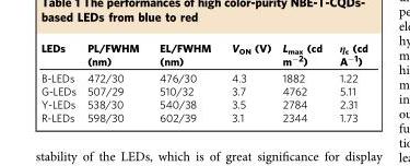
<table><thead><tr><td>LEDs</td><td>PL/FWHM (nm)</td><td>EL/FWHM (nm)</td><td>V<sub>ON</sub> (V)</td><td>L<sub>max</sub> (cd m<sup>−2</sup>)</td><td>η<sub>c</sub> (cd A<sup>−1</sup>)</td></tr></thead><tbody><tr><td>B-LEDs</td><td>472/30</td><td>476/30</td><td>4.3</td><td>1882</td><td>1.22</td></tr><tr><td>G-LEDs</td><td>507/29</td><td>510/32</td><td>3.7</td><td>4762</td><td>5.11</td></tr><tr><td>Y-LEDs</td><td>538/30</td><td>540/38</td><td>3.5</td><td>2784</td><td>2.31</td></tr><tr><td>R-LEDs</td><td>598/30</td><td>602/39</td><td>3.1</td><td>2344</td><td>1.73</td></tr></tbody></table>